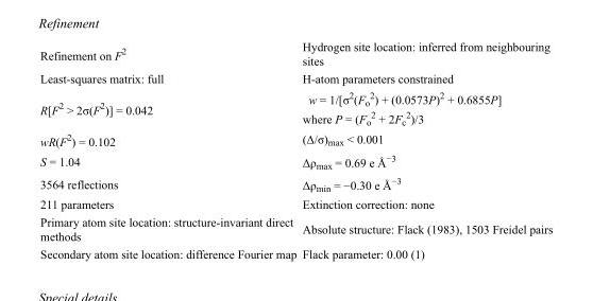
<table><tbody><tr><td>Refinement on F<sup>2</sup></td><td>Hydrogen site location: inferred from neighbouring sites</td></tr><tr><td>Least-squares matrix: full</td><td>H-atom parameters constrained</td></tr><tr><td>R[F<sup>2</sup> &gt; 2σ(F<sup>2</sup>)] = 0.042</td><td>w = 1/[σ<sup>2</sup>(F<sub>o</sub> <sup>2</sup>) + (0.0573P)<sup>2</sup> + 0.6855P] where P = (F<sub>o</sub> <sup>2</sup> + 2F<sub>c</sub> <sup>2</sup>)/3</td></tr><tr><td>wR(F<sup>2</sup>) = 0.102</td><td>(Δ/σ)<sub>max</sub> &lt; 0.001</td></tr><tr><td>S = 1.04</td><td>Δρ<sub>max</sub> = 0.69 e Å<sup>−3</sup></td></tr><tr><td>3564 reflections</td><td>Δρ<sub>min</sub> = −0.30 e Å<sup>−3</sup></td></tr><tr><td>211 parameters</td><td>Extinction correction: none</td></tr><tr><td>Primary atom site location: structure-invariant direct methods</td><td>Absolute structure: Flack (1983), 1503 Freidel pairs</td></tr><tr><td>Secondary atom site location: difference Fourier map</td><td>Flack parameter: 0.00 (1)</td></tr></tbody></table>